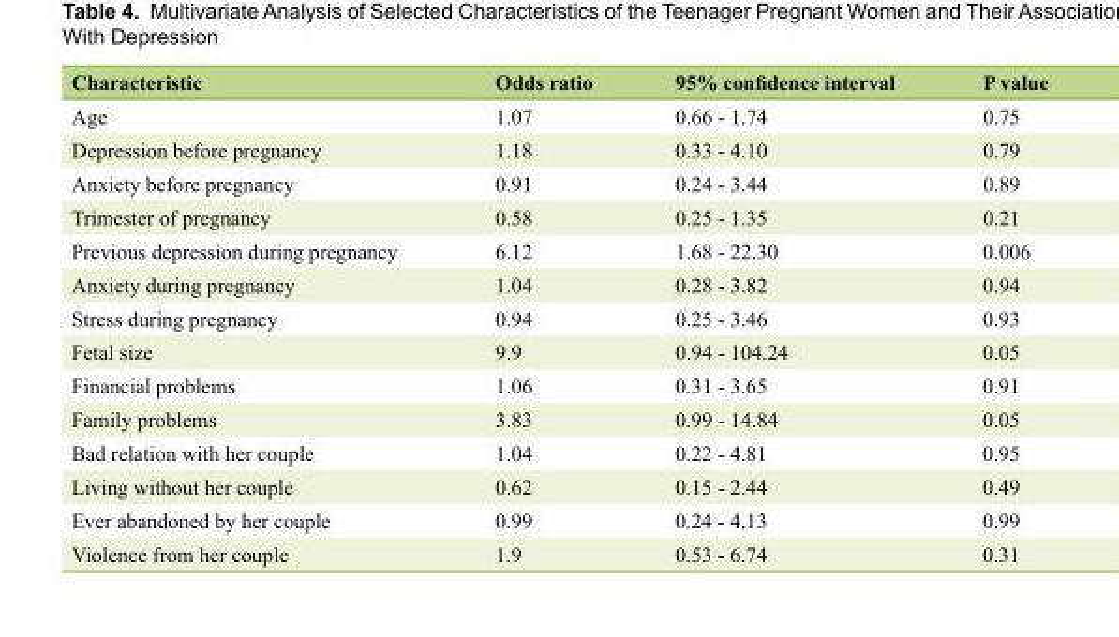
<table><thead><tr><td>Characteristic</td><td>Odds ratio</td><td>95% confidence interval</td><td>P value</td></tr></thead><tbody><tr><td>Age</td><td>1.07</td><td>0.66 - 1.74</td><td>0.75</td></tr><tr><td>Depression before pregnancy</td><td>1.18</td><td>0.33 - 4.10</td><td>0.79</td></tr><tr><td>Anxiety before pregnancy</td><td>0.91</td><td>0.24 - 3.44</td><td>0.89</td></tr><tr><td>Trimester of pregnancy</td><td>0.58</td><td>0.25 - 1.35</td><td>0.21</td></tr><tr><td>Previous depression during pregnancy</td><td>6.12</td><td>1.68 - 22.30</td><td>0.006</td></tr><tr><td>Anxiety during pregnancy</td><td>1.04</td><td>0.28 - 3.82</td><td>0.94</td></tr><tr><td>Stress during pregnancy</td><td>0.94</td><td>0.25 - 3.46</td><td>0.93</td></tr><tr><td>Fetal size</td><td>9.9</td><td>0.94 - 104.24</td><td>0.05</td></tr><tr><td>Financial problems</td><td>1.06</td><td>0.31 - 3.65</td><td>0.91</td></tr><tr><td>Family problems</td><td>3.83</td><td>0.99 - 14.84</td><td>0.05</td></tr><tr><td>Bad relation with her couple</td><td>1.04</td><td>0.22 - 4.81</td><td>0.95</td></tr><tr><td>Living without her couple</td><td>0.62</td><td>0.15 - 2.44</td><td>0.49</td></tr><tr><td>Ever abandoned by her couple</td><td>0.99</td><td>0.24 - 4.13</td><td>0.99</td></tr><tr><td>Violence from her couple</td><td>1.9</td><td>0.53 - 6.74</td><td>0.31</td></tr></tbody></table>